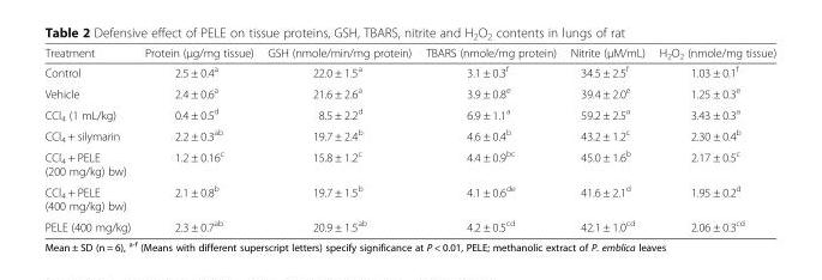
<table><thead><tr><td>Treatment</td><td>Protein (μg/mg tissue)</td><td>GSH (nmole/min/mg protein)</td><td>TBARS (nmole/mg protein)</td><td>Nitrite (μM/mL)</td><td>H<sub>2</sub>O<sub>2</sub> (nmole/mg tissue)</td></tr></thead><tbody><tr><td>Control</td><td>2.5 ± 0.4<sup>a</sup></td><td>22.0 ± 1.5<sup>a</sup></td><td>3.1 ± 0.3<sup>f</sup></td><td>34.5 ± 2.5<sup>f</sup></td><td>1.03 ± 0.1<sup>f</sup></td></tr><tr><td>Vehicle</td><td>2.4 ± 0.6<sup>a</sup></td><td>21.6 ± 2.6<sup>a</sup></td><td>3.9 ± 0.8<sup>e</sup></td><td>39.4 ± 2.0<sup>e</sup></td><td>1.25 ± 0.3<sup>e</sup></td></tr><tr><td>CCl<sub>4</sub> (1 mL/kg)</td><td>0.4 ± 0.5<sup>d</sup></td><td>8.5 ± 2.2<sup>d</sup></td><td>6.9 ± 1.1<sup>a</sup></td><td>59.2 ± 2.5<sup>a</sup></td><td>3.43 ± 0.3<sup>a</sup></td></tr><tr><td>CCl<sub>4</sub> + silymarin</td><td>2.2 ± 0.3<sup>ab</sup></td><td>19.7 ± 2.4<sup>b</sup></td><td>4.6 ± 0.4<sup>b</sup></td><td>43.2 ± 1.2<sup>c</sup></td><td>2.30 ± 0.4<sup>b</sup></td></tr><tr><td>CCl<sub>4</sub> + PELE (200 mg/kg) bw)</td><td>1.2 ± 0.16<sup>c</sup></td><td>15.8 ± 1.2<sup>c</sup></td><td>4.4 ± 0.9<sup>bc</sup></td><td>45.0 ± 1.6<sup>b</sup></td><td>2.17 ± 0.5<sup>c</sup></td></tr><tr><td>CCl<sub>4</sub> + PELE (400 mg/kg) bw)</td><td>2.1 ± 0.8<sup>b</sup></td><td>19.7 ± 1.5<sup>b</sup></td><td>4.1 ± 0.6<sup>de</sup></td><td>41.6 ± 2.1<sup>d</sup></td><td>1.95 ± 0.2<sup>d</sup></td></tr><tr><td>PELE (400 mg/kg)</td><td>2.3 ± 0.7<sup>ab</sup></td><td>20.9 ± 1.5<sup>ab</sup></td><td>4.2 ± 0.5<sup>cd</sup></td><td>42.1 ± 1.0<sup>cd</sup></td><td>2.06 ± 0.3<sup>cd</sup></td></tr></tbody></table>